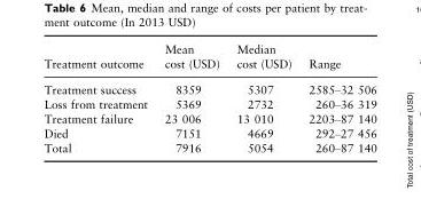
<table><thead><tr><td>Treatment outcome</td><td>Mean cost (USD)</td><td>Median cost (USD)</td><td>Range</td></tr></thead><tbody><tr><td>Treatment success</td><td>8359</td><td>5307</td><td>2585–32 506</td></tr><tr><td>Loss from treatment</td><td>5369</td><td>2732</td><td>260–36 319</td></tr><tr><td>Treatment failure</td><td>23 006</td><td>13 010</td><td>2203–87 140</td></tr><tr><td>Died</td><td>7151</td><td>4669</td><td>292–27 456</td></tr><tr><td>Total</td><td>7916</td><td>5054</td><td>260–87 140</td></tr></tbody></table>